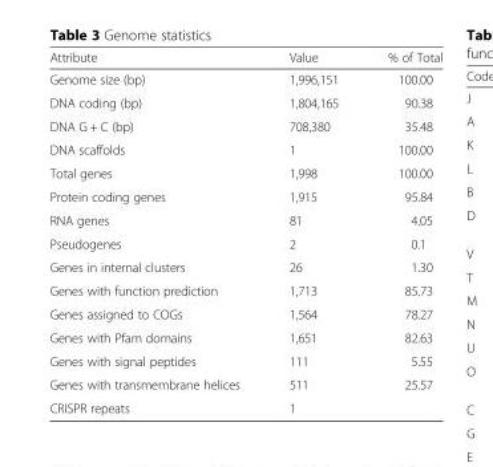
<table><thead><tr><td>Attribute</td><td>Value</td><td>% of Total</td></tr></thead><tbody><tr><td>Genome size (bp)</td><td>1,996,151</td><td>100.00</td></tr><tr><td>DNA coding (bp)</td><td>1,804,165</td><td>90.38</td></tr><tr><td>DNA G + C (bp)</td><td>708,380</td><td>35.48</td></tr><tr><td>DNA scaffolds</td><td>1</td><td>100.00</td></tr><tr><td>Total genes</td><td>1,998</td><td>100.00</td></tr><tr><td>Protein coding genes</td><td>1,915</td><td>95.84</td></tr><tr><td>RNA genes</td><td>81</td><td>4.05</td></tr><tr><td>Pseudogenes</td><td>2</td><td>0.1</td></tr><tr><td>Genes in internal clusters</td><td>26</td><td>1.30</td></tr><tr><td>Genes with function prediction</td><td>1,713</td><td>85.73</td></tr><tr><td>Genes assigned to COGs</td><td>1,564</td><td>78.27</td></tr><tr><td>Genes with Pfam domains</td><td>1,651</td><td>82.63</td></tr><tr><td>Genes with signal peptides</td><td>111</td><td>5.55</td></tr><tr><td>Genes with transmembrane helices</td><td>511</td><td>25.57</td></tr><tr><td>CRISPR repeats</td><td>1</td><td></td></tr></tbody></table>